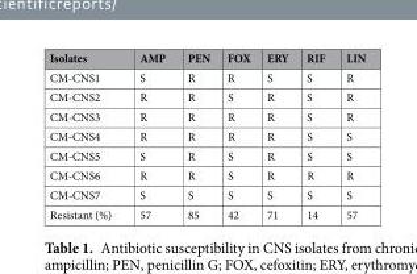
<table><thead><tr><td>Isolates</td><td>AMP</td><td>PEN</td><td>FOX</td><td>ERY</td><td>RIF</td><td>LIN</td></tr></thead><tbody><tr><td>CM-CNS1</td><td>S</td><td>R</td><td>R</td><td>S</td><td>S</td><td>R</td></tr><tr><td>CM-CNS2</td><td>R</td><td>R</td><td>S</td><td>R</td><td>S</td><td>R</td></tr><tr><td>CM-CNS3</td><td>R</td><td>R</td><td>R</td><td>R</td><td>S</td><td>R</td></tr><tr><td>CM-CNS4</td><td>R</td><td>R</td><td>R</td><td>R</td><td>S</td><td>S</td></tr><tr><td>CM-CNS5</td><td>S</td><td>R</td><td>S</td><td>R</td><td>S</td><td>S</td></tr><tr><td>CM-CNS6</td><td>R</td><td>R</td><td>S</td><td>R</td><td>R</td><td>R</td></tr><tr><td>CM-CNS7</td><td>S</td><td>S</td><td>S</td><td>S</td><td>S</td><td>S</td></tr><tr><td>Resistant (%)</td><td>57</td><td>85</td><td>42</td><td>71</td><td>14</td><td>57</td></tr></tbody></table>